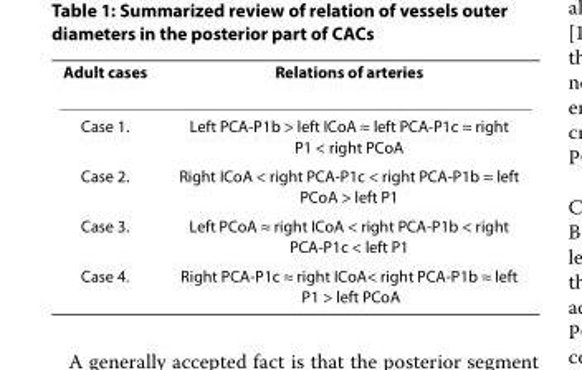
<table><thead><tr><td>Adult cases</td><td>Relations of arteries</td></tr></thead><tbody><tr><td>Case 1.</td><td>Left PCA-P1b &gt; left ICoA ≈ left PCA-P1c ≈ right P1 &lt; right PCoA</td></tr><tr><td>Case 2.</td><td>Right ICoA &lt; right PCA-P1c &lt; right PCA-P1b ≈ left PCoA &gt; left P1</td></tr><tr><td>Case 3.</td><td>Left PCoA ≈ right ICoA &lt; right PCA-P1b &lt; right PCA-P1c &lt; left P1</td></tr><tr><td>Case 4.</td><td>Right PCA-P1c ≈ right ICoA&lt; right PCA-P1b ≈ left P1 &gt; left PCoA</td></tr></tbody></table>